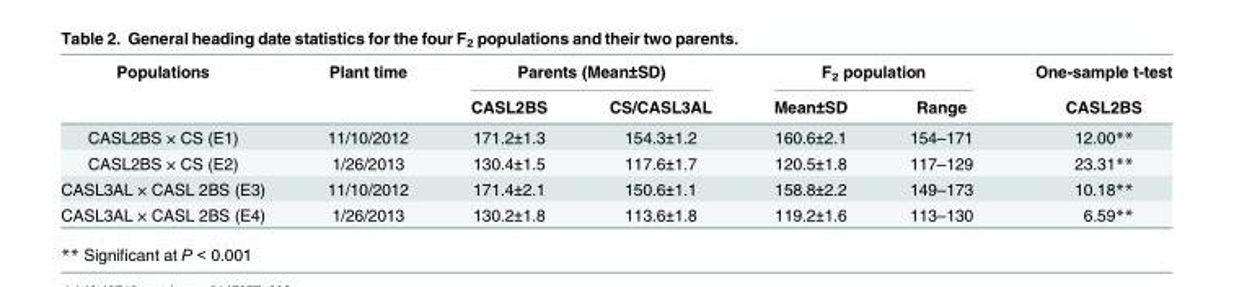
<table><thead><tr><td rowspan="2">Populations</td><td rowspan="2">Plant time</td><td colspan="2">Parents (Mean±SD)</td><td colspan="2">F<sub>2</sub> population</td><td rowspan="2">One-sample t-test CASL2BS</td></tr><tr><td>CASL2BS</td><td>CS/CASL3AL</td><td>Mean±SD</td><td>Range</td></tr></thead><tbody><tr><td>CASL2BS × CS (E1)</td><td>11/10/2012</td><td>171.2±1.3</td><td>154.3±1.2</td><td>160.6±2.1</td><td>154–171</td><td>12.00**</td></tr><tr><td>CASL2BS × CS (E2)</td><td>1/26/2013</td><td>130.4±1.5</td><td>117.6±1.7</td><td>120.5±1.8</td><td>117–129</td><td>23.31**</td></tr><tr><td>CASL3AL × CASL 2BS (E3)</td><td>11/10/2012</td><td>171.4±2.1</td><td>150.6±1.1</td><td>158.8±2.2</td><td>149–173</td><td>10.18**</td></tr><tr><td>CASL3AL × CASL 2BS (E4)</td><td>1/26/2013</td><td>130.2±1.8</td><td>113.6±1.8</td><td>119.2±1.6</td><td>113–130</td><td>6.59**</td></tr></tbody></table>